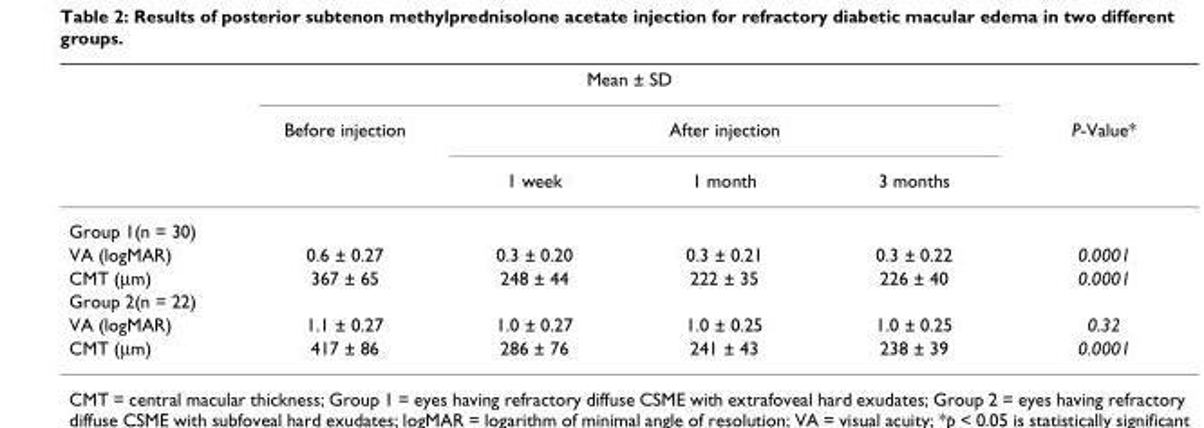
<table><thead><tr><td rowspan="3"></td><td colspan="4">Mean ± SD</td><td rowspan="3">P-Value*</td></tr><tr><td rowspan="2">Before injection</td><td colspan="3">After injection</td></tr><tr><td>1 week</td><td>1 month</td><td>3 months</td></tr></thead><tbody><tr><td colspan="6">Group 1(n = 30)</td></tr><tr><td>VA (logMAR)</td><td>0.6 ± 0.27</td><td>0.3 ± 0.20</td><td>0.3 ± 0.21</td><td>0.3 ± 0.22</td><td>0.0001</td></tr><tr><td>CMT (μm)</td><td>367 ± 65</td><td>248 ± 44</td><td>222 ± 35</td><td>226 ± 40</td><td>0.0001</td></tr><tr><td colspan="6">Group 2(n = 22)</td></tr><tr><td>VA (logMAR)</td><td>1.1 ± 0.27</td><td>1.0 ± 0.27</td><td>1.0 ± 0.25</td><td>1.0 ± 0.25</td><td>0.32</td></tr><tr><td>CMT (μm)</td><td>417 ± 86</td><td>286 ± 76</td><td>241 ± 43</td><td>238 ± 39</td><td>0.0001</td></tr></tbody></table>